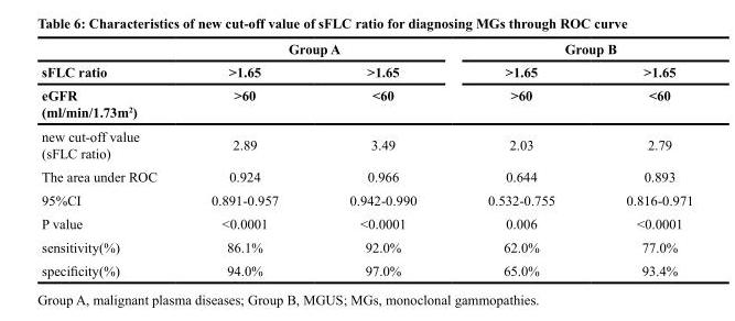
<table><thead><tr><td rowspan="3">sFLC ratio eGFR (ml/min/1.73m<sup>2</sup>)</td><td colspan="2">Group A</td><td colspan="2">Group B</td></tr><tr><td rowspan="2">&gt;1.65 &gt;60</td><td rowspan="2">&gt;1.65 &lt;60</td><td rowspan="2">&gt;1.65 &gt;60</td><td rowspan="2">&gt;1.65 &lt;60</td></tr><tr></tr></thead><tbody><tr><td>new cut-off value (sFLC ratio)</td><td>2.89</td><td>3.49</td><td>2.03</td><td>2.79</td></tr><tr><td>The area under ROC</td><td>0.924</td><td>0.966</td><td>0.644</td><td>0.893</td></tr><tr><td>95%CI</td><td>0.891-0.957</td><td>0.942-0.990</td><td>0.532-0.755</td><td>0.816-0.971</td></tr><tr><td>P value</td><td>&lt;0.0001</td><td>&lt;0.0001</td><td>0.006</td><td>&lt;0.0001</td></tr><tr><td>sensitivity(%)</td><td>86.1%</td><td>92.0%</td><td>62.0%</td><td>77.0%</td></tr><tr><td>specificity(%)</td><td>94.0%</td><td>97.0%</td><td>65.0%</td><td>93.4%</td></tr></tbody></table>